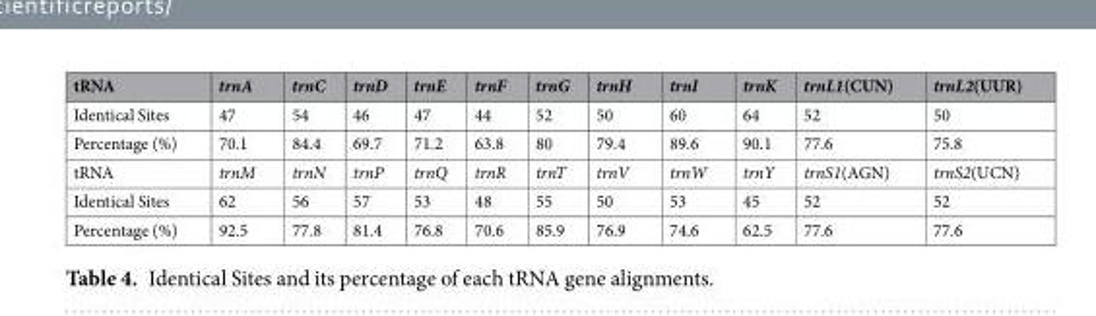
<table><thead><tr><td>tRNA</td><td>trnA</td><td>trnC</td><td>trnD</td><td>trnE</td><td>trnF</td><td>trnG</td><td>trnH</td><td>trnI</td><td>trnK</td><td>trnL1(CUN)</td><td>trnL2(UUR)</td></tr></thead><tbody><tr><td>Identical Sites</td><td>47</td><td>54</td><td>46</td><td>47</td><td>44</td><td>52</td><td>50</td><td>60</td><td>64</td><td>52</td><td>50</td></tr><tr><td>Percentage (%)</td><td>70.1</td><td>84.4</td><td>69.7</td><td>71.2</td><td>63.8</td><td>80</td><td>79.4</td><td>89.6</td><td>90.1</td><td>77.6</td><td>75.8</td></tr><tr><td>tRNA</td><td>trnM</td><td>trnN</td><td>trnP</td><td>trnQ</td><td>trnR</td><td>trnT</td><td>trnV</td><td>trnW</td><td>trnY</td><td>trnS1(AGN)</td><td>trnS2(UCN)</td></tr><tr><td>Identical Sites</td><td>62</td><td>56</td><td>57</td><td>53</td><td>48</td><td>55</td><td>50</td><td>53</td><td>45</td><td>52</td><td>52</td></tr><tr><td>Percentage (%)</td><td>92.5</td><td>77.8</td><td>81.4</td><td>76.8</td><td>70.6</td><td>85.9</td><td>76.9</td><td>74.6</td><td>62.5</td><td>77.6</td><td>77.6</td></tr></tbody></table>